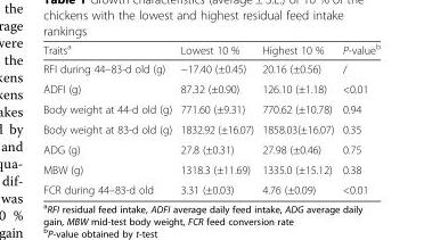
<table><thead><tr><td>Traits<sup>a</sup></td><td>Lowest 10 %</td><td>Highest 10 %</td><td>P-value<sup>b</sup></td></tr></thead><tbody><tr><td>RFI during 44–83-d old (g)</td><td>−17.40 (±0.45)</td><td>20.16 (±0.56)</td><td>/</td></tr><tr><td>ADFI (g)</td><td>87.32 (±0.90)</td><td>126.10 (±1.18)</td><td>&lt;0.01</td></tr><tr><td>Body weight at 44-d old (g)</td><td>771.60 (±9.31)</td><td>770.62 (±10.78)</td><td>0.94</td></tr><tr><td>Body weight at 83-d old (g)</td><td>1832.92 (±16.07)</td><td>1858.03(±16.07)</td><td>0.35</td></tr><tr><td>ADG (g)</td><td>27.8 (±0.31)</td><td>27.98 (±0.46)</td><td>0.75</td></tr><tr><td>MBW (g)</td><td>1318.3 (±11.69)</td><td>1335.0 (±15.12)</td><td>0.38</td></tr><tr><td>FCR during 44–83-d old</td><td>3.31 (±0.03)</td><td>4.76 (±0.09)</td><td>&lt;0.01</td></tr></tbody></table>